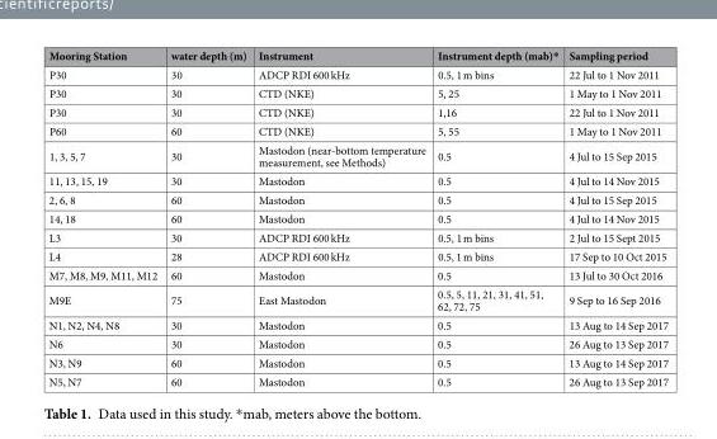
<table><thead><tr><td>Mooring Station</td><td>water depth (m)</td><td>Instrument</td><td>Instrument depth (mab)*</td><td>Sampling period</td></tr></thead><tbody><tr><td>P30</td><td>30</td><td>ADCP RDI 600 kHz</td><td>0.5, 1 m bins</td><td>22 Jul to 1 Nov 2011</td></tr><tr><td>P30</td><td>30</td><td>CTD (NKE)</td><td>5, 25</td><td>1 May to 1 Nov 2011</td></tr><tr><td>P30</td><td>30</td><td>CTD (NKE)</td><td>1,16</td><td>22 Jul to 1 Nov 2011</td></tr><tr><td>P60</td><td>60</td><td>CTD (NKE)</td><td>5, 55</td><td>1 May to 1 Nov 2011</td></tr><tr><td>1, 3, 5, 7</td><td>30</td><td>Mastodon (near-bottom temperature measurement, see Methods)</td><td>0.5</td><td>4 Jul to 15 Sep 2015</td></tr><tr><td>11, 13, 15, 19</td><td>30</td><td>Mastodon</td><td>0.5</td><td>4 Jul to 14 Nov 2015</td></tr><tr><td>2, 6, 8</td><td>60</td><td>Mastodon</td><td>0.5</td><td>4 Jul to 15 Sep 2015</td></tr><tr><td>14, 18</td><td>60</td><td>Mastodon</td><td>0.5</td><td>4 Jul to 14 Nov 2015</td></tr><tr><td>L3</td><td>30</td><td>ADCP RDI 600 kHz</td><td>0.5, 1 m bins</td><td>2 Jul to 15 Sept 2015</td></tr><tr><td>L4</td><td>28</td><td>ADCP RDI 600 kHz</td><td>0.5, 1 m bins</td><td>17 Sep to 10 Oct 2015</td></tr><tr><td>M7, M8, M9, M11, M12</td><td>60</td><td>Mastodon</td><td>0.5</td><td>13 Jul to 30 Oct 2016</td></tr><tr><td>M9E</td><td>75</td><td>East Mastodon</td><td>0.5, 5, 11, 21, 31, 41, 51, 62, 72, 75</td><td>9 Sep to 16 Sep 2016</td></tr><tr><td>N1, N2, N4, N8</td><td>30</td><td>Mastodon</td><td>0.5</td><td>13 Aug to 14 Sep 2017</td></tr><tr><td>N6</td><td>30</td><td>Mastodon</td><td>0.5</td><td>26 Aug to 13 Sep 2017</td></tr><tr><td>N3, N9</td><td>60</td><td>Mastodon</td><td>0.5</td><td>13 Aug to 14 Sep 2017</td></tr><tr><td>N5, N7</td><td>60</td><td>Mastodon</td><td>0.5</td><td>26 Aug to 13 Sep 2017</td></tr></tbody></table>